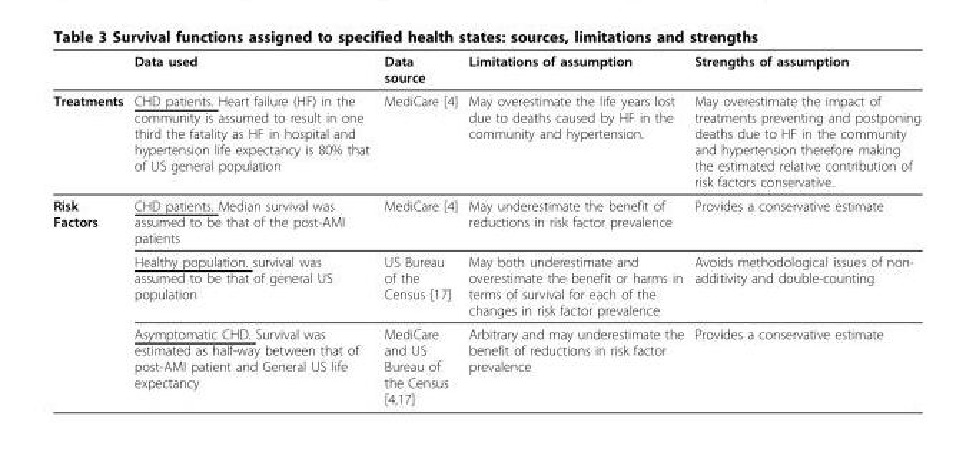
<table><thead><tr><td></td><td>Data used</td><td>Data source</td><td>Limitations of assumption</td><td>Strengths of assumption</td></tr></thead><tbody><tr><td>Treatments</td><td>CHD patients. Heart failure (HF) in the community is assumed to result in one third the fatality as HF in hospital and hypertension life expectancy is 80% that of US general population</td><td>MediCare [4]</td><td>May overestimate the life years lost due to deaths caused by HF in the community and hypertension.</td><td>May overestimate the impact of treatments preventing and postponing deaths due to HF in the community and hypertension therefore making the estimated relative contribution of risk factors conservative.</td></tr><tr><td rowspan="3">Risk Factors</td><td>CHD patients. Median survival was assumed to be that of the post-AMI patients</td><td>MediCare [4]</td><td>May underestimate the benefit of reductions in risk factor prevalence</td><td>Provides a conservative estimate</td></tr><tr><td>Healthy population. survival was assumed to be that of general US population</td><td>US Bureau of the Census [17]</td><td>May both underestimate and overestimate the benefit or harms in terms of survival for each of the changes in risk factor prevalence</td><td>Avoids methodological issues of non- additivity and double-counting</td></tr><tr><td>Asymptomatic CHD. Survival was estimated as half-way between that of post-AMI patient and General US life expectancy</td><td>MediCare and US Bureau of the Census [4,17]</td><td>Arbitrary and may underestimate the benefit of reductions in risk factor prevalence</td><td>Provides a conservative estimate</td></tr></tbody></table>